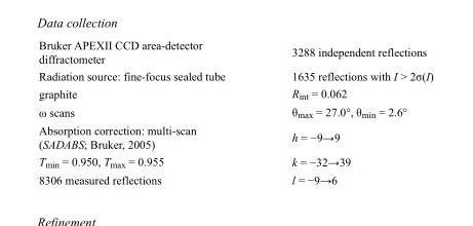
<table><tbody><tr><td>Bruker APEXII CCD area-detector diffractometer</td><td>3288 independent reflections</td></tr><tr><td>Radiation source: fine-focus sealed tube</td><td>1635 reflections with I &gt; 2σ(I)</td></tr><tr><td>graphite</td><td>R<sub>int</sub> = 0.062</td></tr><tr><td>ω scans</td><td>θ<sub>max</sub> = 27.0°, θ<sub>min</sub> = 2.6°</td></tr><tr><td>Absorption correction: multi-scan (SADABS; Bruker, 2005)</td><td>h = −9→9</td></tr><tr><td>T<sub>min</sub> = 0.950, T<sub>max</sub> = 0.955</td><td>k = −32→39</td></tr><tr><td>8306 measured reflections</td><td>l = −9→6</td></tr></tbody></table>